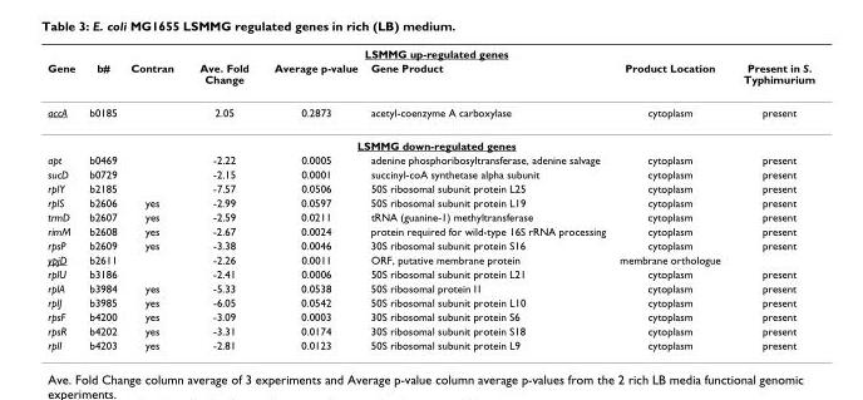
<table><thead><tr><td colspan="8">LSMMG up-regulated genes</td></tr><tr><td>Gene</td><td>b#</td><td>Contran</td><td>Ave. Fold Change</td><td>Average p-value</td><td>Gene Product</td><td>Product Location</td><td>Present in S. Typhimurium</td></tr></thead><tbody><tr><td>accA</td><td>b0185</td><td></td><td>2.05</td><td>0.2873</td><td>acetyl-coenzyme A carboxylase</td><td>cytoplasm</td><td>present</td></tr><tr><td colspan="8">LSMMG down-regulated genes</td></tr><tr><td>apt</td><td>b0469</td><td></td><td>-2.22</td><td>0.0005</td><td>adenine phosphoribosyltransferase, adenine salvage</td><td>cytoplasm</td><td>present</td></tr><tr><td>sucD</td><td>b0729</td><td></td><td>-2.15</td><td>0.0001</td><td>succinyl-coA synthetase alpha subunit</td><td>cytoplasm</td><td>present</td></tr><tr><td>rplY</td><td>b2185</td><td></td><td>-7.57</td><td>0.0506</td><td>50S ribosomal subunit protein L25</td><td>cytoplasm</td><td>present</td></tr><tr><td>rplS</td><td>b2606</td><td>yes</td><td>-2.99</td><td>0.0597</td><td>50S ribosomal subunit protein L19</td><td>cytoplasm</td><td>present</td></tr><tr><td>trmD</td><td>b2607</td><td>yes</td><td>-2.59</td><td>0.0211</td><td>tRNA (guanine-1) methyltransferase</td><td>cytoplasm</td><td>present</td></tr><tr><td>rimM</td><td>b2608</td><td>yes</td><td>-2.67</td><td>0.0024</td><td>protein required for wild-type 16S rRNA processing</td><td>cytoplasm</td><td>present</td></tr><tr><td>rpsP</td><td>b2609</td><td>yes</td><td>-3.38</td><td>0.0046</td><td>30S ribosomal subunit protein S16</td><td>cytoplasm</td><td>present</td></tr><tr><td>ypjD</td><td>b2611</td><td></td><td>-2.26</td><td>0.0011</td><td>ORF, putative membrane protein</td><td>membrane orthologue</td><td></td></tr><tr><td>rplU</td><td>b3186</td><td></td><td>-2.41</td><td>0.0006</td><td>50S ribosomal subunit protein L21</td><td>cytoplasm</td><td>present</td></tr><tr><td>rplA</td><td>b3984</td><td>yes</td><td>-5.33</td><td>0.0538</td><td>50S ribosomal protein I1</td><td>cytoplasm</td><td>present</td></tr><tr><td>rplJ</td><td>b3985</td><td>yes</td><td>-6.05</td><td>0.0542</td><td>50S ribosomal subunit protein L10</td><td>cytoplasm</td><td>present</td></tr><tr><td>rpsF</td><td>b4200</td><td>yes</td><td>-3.09</td><td>0.0003</td><td>30S ribosomal subunit protein S6</td><td>cytoplasm</td><td>present</td></tr><tr><td>rpsR</td><td>b4202</td><td>yes</td><td>-3.31</td><td>0.0174</td><td>30S ribosomal subunit protein S18</td><td>cytoplasm</td><td>present</td></tr><tr><td>rplI</td><td>b4203</td><td>yes</td><td>-2.81</td><td>0.0123</td><td>50S ribosomal subunit protein L9</td><td>cytoplasm</td><td>present</td></tr></tbody></table>